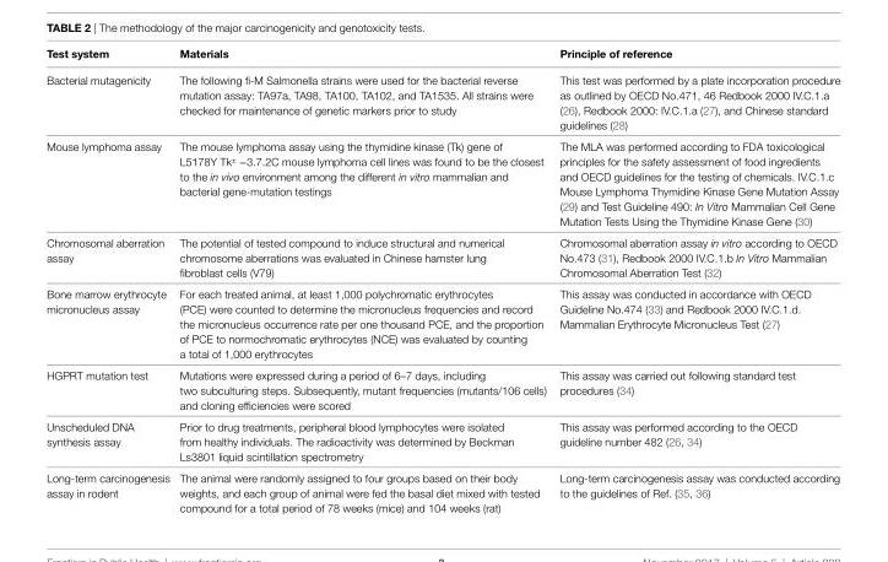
<table><thead><tr><td>Test system</td><td>Materials</td><td>Principle of reference</td></tr></thead><tbody><tr><td>Bacterial mutagenicity</td><td>The following fi-M Salmonella strains were used for the bacterial reverse mutation assay: TA97a, TA98, TA100, TA102, and TA1535. All strains were checked for maintenance of genetic markers prior to study</td><td>This test was performed by a plate incorporation procedure as outlined by OECD No.471, 46 Redbook 2000 IV.C.1.a (26), Redbook 2000: IV.C.1.a (27), and Chinese standard guidelines (28)</td></tr><tr><td>Mouse lymphoma assay</td><td>The mouse lymphoma assay using the thymidine kinase (Tk) gene of L5178Y Tk<sup>±</sup> −3.7.2C mouse lymphoma cell lines was found to be the closest to the in vivo environment among the different in vitro mammalian and bacterial gene-mutation testings</td><td>The MLA was performed according to FDA toxicological principles for the safety assessment of food ingredients and OECD guidelines for the testing of chemicals. IV.C.1.c Mouse Lymphoma Thymidine Kinase Gene Mutation Assay (29) and Test Guideline 490: In Vitro Mammalian Cell Gene Mutation Tests Using the Thymidine Kinase Gene (30)</td></tr><tr><td>Chromosomal aberration assay</td><td>The potential of tested compound to induce structural and numerical chromosome aberrations was evaluated in Chinese hamster lung fibroblast cells (V79)</td><td>Chromosomal aberration assay in vitro according to OECD No.473 (31), Redbook 2000 IV.C.1.b In Vitro Mammalian Chromosomal Aberration Test (32)</td></tr><tr><td>Bone marrow erythrocyte micronucleus assay</td><td>For each treated animal, at least 1,000 polychromatic erythrocytes (PCE) were counted to determine the micronucleus frequencies and record the micronucleus occurrence rate per one thousand PCE, and the proportion of PCE to normochromatic erythrocytes (NCE) was evaluated by counting a total of 1,000 erythrocytes</td><td>This assay was conducted in accordance with OECD Guideline No.474 (33) and Redbook 2000 IV.C.1.d. Mammalian Erythrocyte Micronucleus Test (27)</td></tr><tr><td>HGPRT mutation test</td><td>Mutations were expressed during a period of 6–7 days, including two subculturing steps. Subsequently, mutant frequencies (mutants/106 cells) and cloning efficiencies were scored</td><td>This assay was carried out following standard test procedures (34)</td></tr><tr><td>Unscheduled DNA synthesis assay</td><td>Prior to drug treatments, peripheral blood lymphocytes were isolated from healthy individuals. The radioactivity was determined by Beckman Ls3801 liquid scintillation spectrometry</td><td>This assay was performed according to the OECD guideline number 482 (26, 34)</td></tr><tr><td>Long-term carcinogenesis assay in rodent</td><td>The animal were randomly assigned to four groups based on their body weights, and each group of animal were fed the basal diet mixed with tested compound for a total period of 78 weeks (mice) and 104 weeks (rat)</td><td>Long-term carcinogenesis assay was conducted according to the guidelines of Ref. (35, 36)</td></tr></tbody></table>